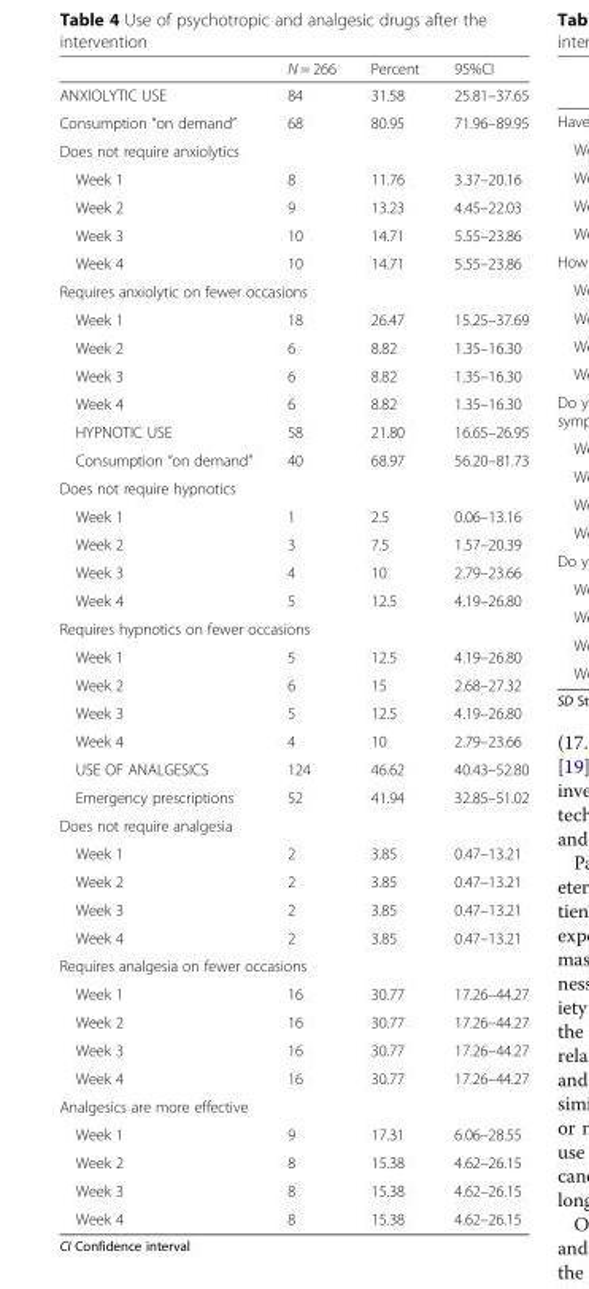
<table><thead><tr><td></td><td>N = 266</td><td>Percent</td><td>95%CI</td></tr></thead><tbody><tr><td>ANXIOLYTIC USE</td><td>84</td><td>31.58</td><td>25.81–37.65</td></tr><tr><td>Consumption “on demand”</td><td>68</td><td>80.95</td><td>71.96–89.95</td></tr><tr><td colspan="4">Does not require anxiolytics</td></tr><tr><td>Week 1</td><td>8</td><td>11.76</td><td>3.37–20.16</td></tr><tr><td>Week 2</td><td>9</td><td>13.23</td><td>4.45–22.03</td></tr><tr><td>Week 3</td><td>10</td><td>14.71</td><td>5.55–23.86</td></tr><tr><td>Week 4</td><td>10</td><td>14.71</td><td>5.55–23.86</td></tr><tr><td colspan="4">Requires anxiolytic on fewer occasions</td></tr><tr><td>Week 1</td><td>18</td><td>26.47</td><td>15.25–37.69</td></tr><tr><td>Week 2</td><td>6</td><td>8.82</td><td>1.35–16.30</td></tr><tr><td>Week 3</td><td>6</td><td>8.82</td><td>1.35–16.30</td></tr><tr><td>Week 4</td><td>6</td><td>8.82</td><td>1.35–16.30</td></tr><tr><td>HYPNOTIC USE</td><td>58</td><td>21.80</td><td>16.65–26.95</td></tr><tr><td>Consumption “on demand”</td><td>40</td><td>68.97</td><td>56.20–81.73</td></tr><tr><td colspan="4">Does not require hypnotics</td></tr><tr><td>Week 1</td><td>1</td><td>2.5</td><td>0.06–13.16</td></tr><tr><td>Week 2</td><td>3</td><td>7.5</td><td>1.57–20.39</td></tr><tr><td>Week 3</td><td>4</td><td>10</td><td>2.79–23.66</td></tr><tr><td>Week 4</td><td>5</td><td>12.5</td><td>4.19–26.80</td></tr><tr><td colspan="4">Requires hypnotics on fewer occasions</td></tr><tr><td>Week 1</td><td>5</td><td>12.5</td><td>4.19–26.80</td></tr><tr><td>Week 2</td><td>6</td><td>15</td><td>2.68–27.32</td></tr><tr><td>Week 3</td><td>5</td><td>12.5</td><td>4.19–26.80</td></tr><tr><td>Week 4</td><td>4</td><td>10</td><td>2.79–23.66</td></tr><tr><td>USE OF ANALGESICS</td><td>124</td><td>46.62</td><td>40.43–52.80</td></tr><tr><td>Emergency prescriptions</td><td>52</td><td>41.94</td><td>32.85–51.02</td></tr><tr><td colspan="4">Does not require analgesia</td></tr><tr><td>Week 1</td><td>2</td><td>3.85</td><td>0.47–13.21</td></tr><tr><td>Week 2</td><td>2</td><td>3.85</td><td>0.47–13.21</td></tr><tr><td>Week 3</td><td>2</td><td>3.85</td><td>0.47–13.21</td></tr><tr><td>Week 4</td><td>2</td><td>3.85</td><td>0.47–13.21</td></tr><tr><td colspan="4">Requires analgesia on fewer occasions</td></tr><tr><td>Week 1</td><td>16</td><td>30.77</td><td>17.26–44.27</td></tr><tr><td>Week 2</td><td>16</td><td>30.77</td><td>17.26–44.27</td></tr><tr><td>Week 3</td><td>16</td><td>30.77</td><td>17.26–44.27</td></tr><tr><td>Week 4</td><td>16</td><td>30.77</td><td>17.26–44.27</td></tr><tr><td colspan="4">Analgesics are more effective</td></tr><tr><td>Week 1</td><td>9</td><td>17.31</td><td>6.06–28.55</td></tr><tr><td>Week 2</td><td>8</td><td>15.38</td><td>4.62–26.15</td></tr><tr><td>Week 3</td><td>8</td><td>15.38</td><td>4.62–26.15</td></tr><tr><td>Week 4</td><td>8</td><td>15.38</td><td>4.62–26.15</td></tr></tbody></table>